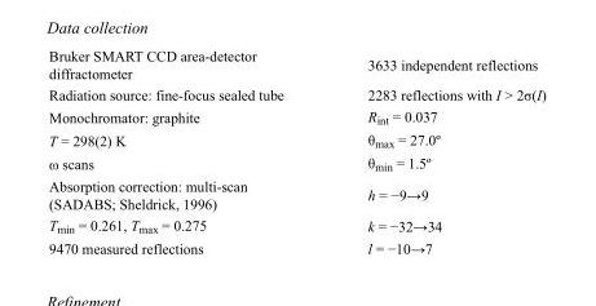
<table><tbody><tr><td>Bruker SMART CCD area-detector diffractometer</td><td>3633 independent reflections</td></tr><tr><td>Radiation source: fine-focus sealed tube</td><td>2283 reflections with I &gt; 2σ(I)</td></tr><tr><td>Monochromator: graphite</td><td>R<sub>int</sub> = 0.037</td></tr><tr><td>T = 298(2) K</td><td>θ<sub>max</sub> = 27.0º</td></tr><tr><td>ω scans</td><td>θ<sub>min</sub> = 1.5º</td></tr><tr><td>Absorption correction: multi-scan (SADABS; Sheldrick, 1996)</td><td>h = −9→9</td></tr><tr><td>T<sub>min</sub> = 0.261, T<sub>max</sub> = 0.275</td><td>k = −32→34</td></tr><tr><td>9470 measured reflections</td><td>l = −10→7</td></tr></tbody></table>